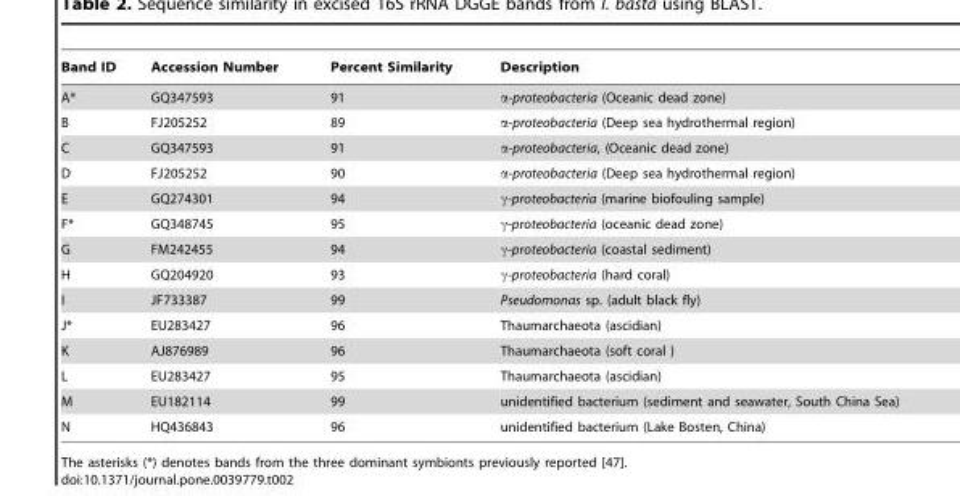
<table><thead><tr><td>Band ID</td><td>Accession Number</td><td>Percent Similarity</td><td>Description</td></tr></thead><tbody><tr><td>A*</td><td>GQ347593</td><td>91</td><td>α-proteobacteria (Oceanic dead zone)</td></tr><tr><td>B</td><td>FJ205252</td><td>89</td><td>α-proteobacteria (Deep sea hydrothermal region)</td></tr><tr><td>C</td><td>GQ347593</td><td>91</td><td>α-proteobacteria, (Oceanic dead zone)</td></tr><tr><td>D</td><td>FJ205252</td><td>90</td><td>α-proteobacteria (Deep sea hydrothermal region)</td></tr><tr><td>E</td><td>GQ274301</td><td>94</td><td>γ-proteobacteria (marine biofouling sample)</td></tr><tr><td>F*</td><td>GQ348745</td><td>95</td><td>γ-proteobacteria (oceanic dead zone)</td></tr><tr><td>G</td><td>FM242455</td><td>94</td><td>γ-proteobacteria (coastal sediment)</td></tr><tr><td>H</td><td>GQ204920</td><td>93</td><td>γ-proteobacteria (hard coral)</td></tr><tr><td>I</td><td>JF733387</td><td>99</td><td>Pseudomonas sp. (adult black fly)</td></tr><tr><td>J*</td><td>EU283427</td><td>96</td><td>Thaumarchaeota (ascidian)</td></tr><tr><td>K</td><td>AJ876989</td><td>96</td><td>Thaumarchaeota (soft coral )</td></tr><tr><td>L</td><td>EU283427</td><td>95</td><td>Thaumarchaeota (ascidian)</td></tr><tr><td>M</td><td>EU182114</td><td>99</td><td>unidentified bacterium (sediment and seawater, South China Sea)</td></tr><tr><td>N</td><td>HQ436843</td><td>96</td><td>unidentified bacterium (Lake Bosten, China)</td></tr></tbody></table>